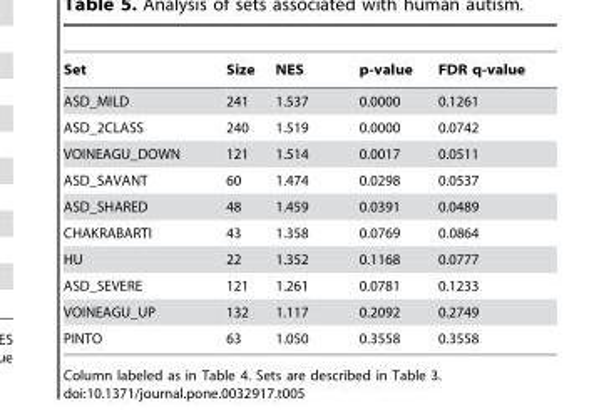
<table><thead><tr><td>Set</td><td>Size</td><td>NES</td><td>p-value</td><td>FDR q-value</td></tr></thead><tbody><tr><td>ASD_MILD</td><td>241</td><td>1.537</td><td>0.0000</td><td>0.1261</td></tr><tr><td>ASD_2CLASS</td><td>240</td><td>1.519</td><td>0.0000</td><td>0.0742</td></tr><tr><td>VOINEAGU_DOWN</td><td>121</td><td>1.514</td><td>0.0017</td><td>0.0511</td></tr><tr><td>ASD_SAVANT</td><td>60</td><td>1.474</td><td>0.0298</td><td>0.0537</td></tr><tr><td>ASD_SHARED</td><td>48</td><td>1.459</td><td>0.0391</td><td>0.0489</td></tr><tr><td>CHAKRABARTI</td><td>43</td><td>1.358</td><td>0.0769</td><td>0.0864</td></tr><tr><td>HU</td><td>22</td><td>1.352</td><td>0.1168</td><td>0.0777</td></tr><tr><td>ASD_SEVERE</td><td>121</td><td>1.261</td><td>0.0781</td><td>0.1233</td></tr><tr><td>VOINEAGU_UP</td><td>132</td><td>1.117</td><td>0.2092</td><td>0.2749</td></tr><tr><td>PINTO</td><td>63</td><td>1.050</td><td>0.3558</td><td>0.3558</td></tr></tbody></table>